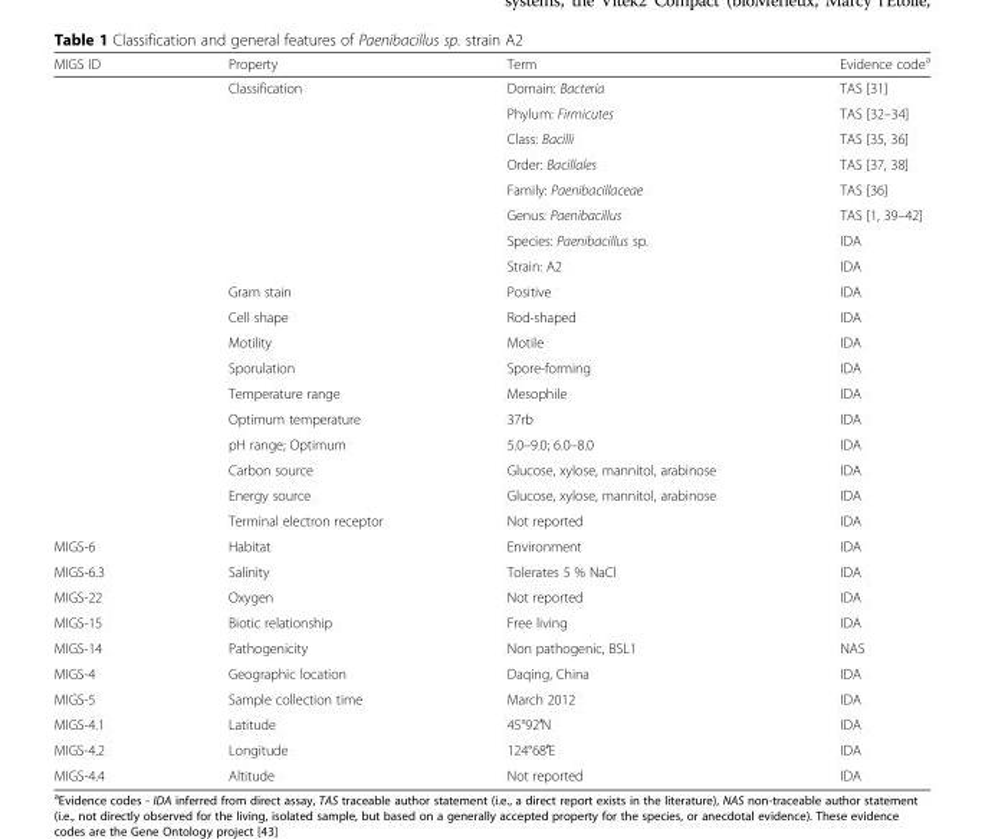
<table><thead><tr><td>MIGS ID</td><td>Property</td><td>Term</td><td>Evidence code<sup>a</sup></td></tr></thead><tbody><tr><td></td><td>Classification</td><td>Domain: Bacteria</td><td>TAS [31]</td></tr><tr><td></td><td></td><td>Phylum: Firmicutes</td><td>TAS [32–34]</td></tr><tr><td></td><td></td><td>Class: Bacilli</td><td>TAS [35, 36]</td></tr><tr><td></td><td></td><td>Order: Bacillales</td><td>TAS [37, 38]</td></tr><tr><td></td><td></td><td>Family: Paenibacillaceae</td><td>TAS [36]</td></tr><tr><td></td><td></td><td>Genus: Paenibacillus</td><td>TAS [1, 39–42]</td></tr><tr><td></td><td></td><td>Species: Paenibacillus sp.</td><td>IDA</td></tr><tr><td></td><td></td><td>Strain: A2</td><td>IDA</td></tr><tr><td></td><td>Gram stain</td><td>Positive</td><td>IDA</td></tr><tr><td></td><td>Cell shape</td><td>Rod-shaped</td><td>IDA</td></tr><tr><td></td><td>Motility</td><td>Motile</td><td>IDA</td></tr><tr><td></td><td>Sporulation</td><td>Spore-forming</td><td>IDA</td></tr><tr><td></td><td>Temperature range</td><td>Mesophile</td><td>IDA</td></tr><tr><td></td><td>Optimum temperature</td><td>37rb</td><td>IDA</td></tr><tr><td></td><td>pH range; Optimum</td><td>5.0–9.0; 6.0–8.0</td><td>IDA</td></tr><tr><td></td><td>Carbon source</td><td>Glucose, xylose, mannitol, arabinose</td><td>IDA</td></tr><tr><td></td><td>Energy source</td><td>Glucose, xylose, mannitol, arabinose</td><td>IDA</td></tr><tr><td></td><td>Terminal electron receptor</td><td>Not reported</td><td>IDA</td></tr><tr><td>MIGS-6</td><td>Habitat</td><td>Environment</td><td>IDA</td></tr><tr><td>MIGS-6.3</td><td>Salinity</td><td>Tolerates 5 % NaCl</td><td>IDA</td></tr><tr><td>MIGS-22</td><td>Oxygen</td><td>Not reported</td><td>IDA</td></tr><tr><td>MIGS-15</td><td>Biotic relationship</td><td>Free living</td><td>IDA</td></tr><tr><td>MIGS-14</td><td>Pathogenicity</td><td>Non pathogenic, BSL1</td><td>NAS</td></tr><tr><td>MIGS-4</td><td>Geographic location</td><td>Daqing, China</td><td>IDA</td></tr><tr><td>MIGS-5</td><td>Sample collection time</td><td>March 2012</td><td>IDA</td></tr><tr><td>MIGS-4.1</td><td>Latitude</td><td>45°92′N</td><td>IDA</td></tr><tr><td>MIGS-4.2</td><td>Longitude</td><td>124°68′E</td><td>IDA</td></tr><tr><td>MIGS-4.4</td><td>Altitude</td><td>Not reported</td><td>IDA</td></tr></tbody></table>